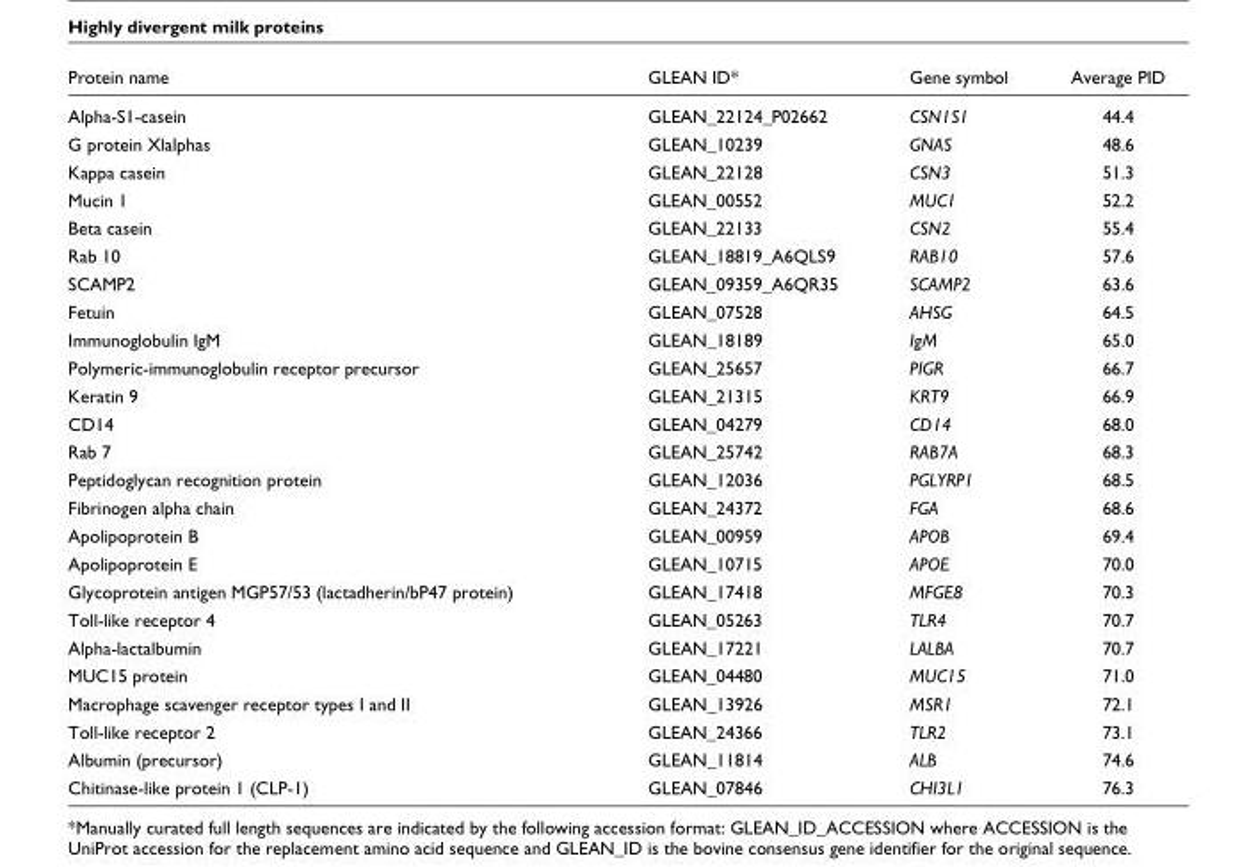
<table><thead><tr><td>Protein name</td><td>GLEAN ID*</td><td>Gene symbol</td><td>Average PID</td></tr></thead><tbody><tr><td>Alpha-S1-casein</td><td>GLEAN_22124_P02662</td><td>CSN1S1</td><td>44.4</td></tr><tr><td>G protein Xlalphas</td><td>GLEAN_10239</td><td>GNAS</td><td>48.6</td></tr><tr><td>Kappa casein</td><td>GLEAN_22128</td><td>CSN3</td><td>51.3</td></tr><tr><td>Mucin 1</td><td>GLEAN_00552</td><td>MUC1</td><td>52.2</td></tr><tr><td>Beta casein</td><td>GLEAN_22133</td><td>CSN2</td><td>55.4</td></tr><tr><td>Rab 10</td><td>GLEAN_18819_A6QLS9</td><td>RAB10</td><td>57.6</td></tr><tr><td>SCAMP2</td><td>GLEAN_09359_A6QR35</td><td>SCAMP2</td><td>63.6</td></tr><tr><td>Fetuin</td><td>GLEAN_07528</td><td>AHSG</td><td>64.5</td></tr><tr><td>Immunoglobulin IgM</td><td>GLEAN_18189</td><td>IgM</td><td>65.0</td></tr><tr><td>Polymeric-immunoglobulin receptor precursor</td><td>GLEAN_25657</td><td>PIGR</td><td>66.7</td></tr><tr><td>Keratin 9</td><td>GLEAN_21315</td><td>KRT9</td><td>66.9</td></tr><tr><td>CD14</td><td>GLEAN_04279</td><td>CD14</td><td>68.0</td></tr><tr><td>Rab 7</td><td>GLEAN_25742</td><td>RAB7A</td><td>68.3</td></tr><tr><td>Peptidoglycan recognition protein</td><td>GLEAN_12036</td><td>PGLYRP1</td><td>68.5</td></tr><tr><td>Fibrinogen alpha chain</td><td>GLEAN_24372</td><td>FGA</td><td>68.6</td></tr><tr><td>Apolipoprotein B</td><td>GLEAN_00959</td><td>APOB</td><td>69.4</td></tr><tr><td>Apolipoprotein E</td><td>GLEAN_10715</td><td>APOE</td><td>70.0</td></tr><tr><td>Glycoprotein antigen MGP57/53 (lactadherin/bP47 protein)</td><td>GLEAN_17418</td><td>MFGE8</td><td>70.3</td></tr><tr><td>Toll-like receptor 4</td><td>GLEAN_05263</td><td>TLR4</td><td>70.7</td></tr><tr><td>Alpha-lactalbumin</td><td>GLEAN_17221</td><td>LALBA</td><td>70.7</td></tr><tr><td>MUC15 protein</td><td>GLEAN_04480</td><td>MUC15</td><td>71.0</td></tr><tr><td>Macrophage scavenger receptor types I and II</td><td>GLEAN_13926</td><td>MSR1</td><td>72.1</td></tr><tr><td>Toll-like receptor 2</td><td>GLEAN_24366</td><td>TLR2</td><td>73.1</td></tr><tr><td>Albumin (precursor)</td><td>GLEAN_11814</td><td>ALB</td><td>74.6</td></tr><tr><td>Chitinase-like protein 1 (CLP-1)</td><td>GLEAN_07846</td><td>CHI3L1</td><td>76.3</td></tr></tbody></table>